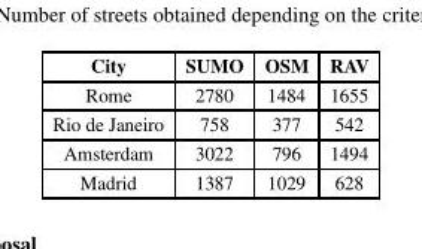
<table><thead><tr><td>City</td><td>SUMO</td><td>OSM</td><td>RAV</td></tr></thead><tbody><tr><td>Rome</td><td>2780</td><td>1484</td><td>1655</td></tr><tr><td>Rio de Janeiro</td><td>758</td><td>377</td><td>542</td></tr><tr><td>Amsterdam</td><td>3022</td><td>796</td><td>1494</td></tr><tr><td>Madrid</td><td>1387</td><td>1029</td><td>628</td></tr></tbody></table>